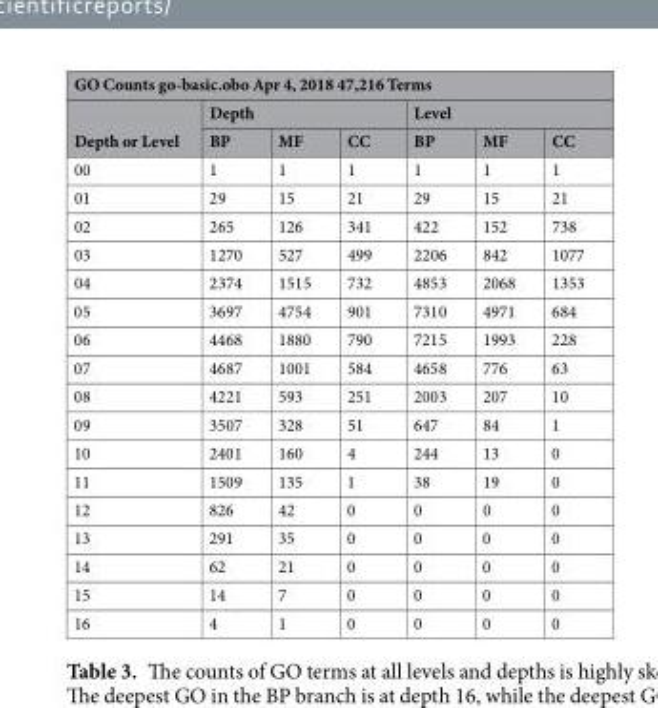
<table><thead><tr><td colspan="7">GO Counts go-basic.obo Apr 4, 2018 47,216 Terms</td></tr><tr><td rowspan="2">Depth or Level</td><td colspan="3">Depth</td><td colspan="3">Level</td></tr><tr><td>BP</td><td>MF</td><td>CC</td><td>BP</td><td>MF</td><td>CC</td></tr></thead><tbody><tr><td>00</td><td>1</td><td>1</td><td>1</td><td>1</td><td>1</td><td>1</td></tr><tr><td>01</td><td>29</td><td>15</td><td>21</td><td>29</td><td>15</td><td>21</td></tr><tr><td>02</td><td>265</td><td>126</td><td>341</td><td>422</td><td>152</td><td>738</td></tr><tr><td>03</td><td>1270</td><td>527</td><td>499</td><td>2206</td><td>842</td><td>1077</td></tr><tr><td>04</td><td>2374</td><td>1515</td><td>732</td><td>4853</td><td>2068</td><td>1353</td></tr><tr><td>05</td><td>3697</td><td>4754</td><td>901</td><td>7310</td><td>4971</td><td>684</td></tr><tr><td>06</td><td>4468</td><td>1880</td><td>790</td><td>7215</td><td>1993</td><td>228</td></tr><tr><td>07</td><td>4687</td><td>1001</td><td>584</td><td>4658</td><td>776</td><td>63</td></tr><tr><td>08</td><td>4221</td><td>593</td><td>251</td><td>2003</td><td>207</td><td>10</td></tr><tr><td>09</td><td>3507</td><td>328</td><td>51</td><td>647</td><td>84</td><td>1</td></tr><tr><td>10</td><td>2401</td><td>160</td><td>4</td><td>244</td><td>13</td><td>0</td></tr><tr><td>11</td><td>1509</td><td>135</td><td>1</td><td>38</td><td>19</td><td>0</td></tr><tr><td>12</td><td>826</td><td>42</td><td>0</td><td>0</td><td>0</td><td>0</td></tr><tr><td>13</td><td>291</td><td>35</td><td>0</td><td>0</td><td>0</td><td>0</td></tr><tr><td>14</td><td>62</td><td>21</td><td>0</td><td>0</td><td>0</td><td>0</td></tr><tr><td>15</td><td>14</td><td>7</td><td>0</td><td>0</td><td>0</td><td>0</td></tr><tr><td>16</td><td>4</td><td>1</td><td>0</td><td>0</td><td>0</td><td>0</td></tr></tbody></table>